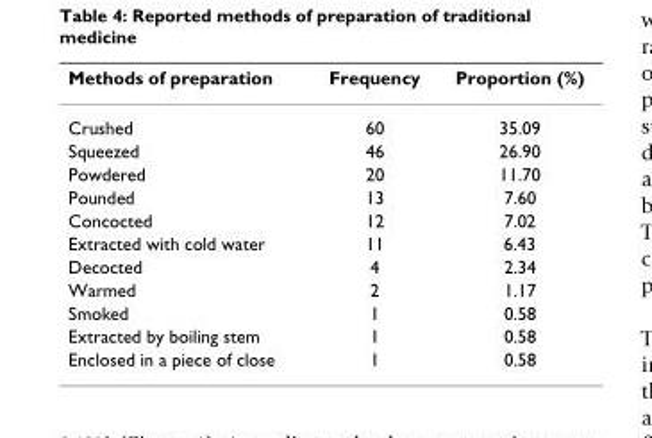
<table><thead><tr><td>Methods of preparation</td><td>Frequency</td><td>Proportion (%)</td></tr></thead><tbody><tr><td>Crushed</td><td>60</td><td>35.09</td></tr><tr><td>Squeezed</td><td>46</td><td>26.90</td></tr><tr><td>Powdered</td><td>20</td><td>11.70</td></tr><tr><td>Pounded</td><td>13</td><td>7.60</td></tr><tr><td>Concocted</td><td>12</td><td>7.02</td></tr><tr><td>Extracted with cold water</td><td>11</td><td>6.43</td></tr><tr><td>Decocted</td><td>4</td><td>2.34</td></tr><tr><td>Warmed</td><td>2</td><td>1.17</td></tr><tr><td>Smoked</td><td>1</td><td>0.58</td></tr><tr><td>Extracted by boiling stem</td><td>1</td><td>0.58</td></tr><tr><td>Enclosed in a piece of close</td><td>1</td><td>0.58</td></tr></tbody></table>